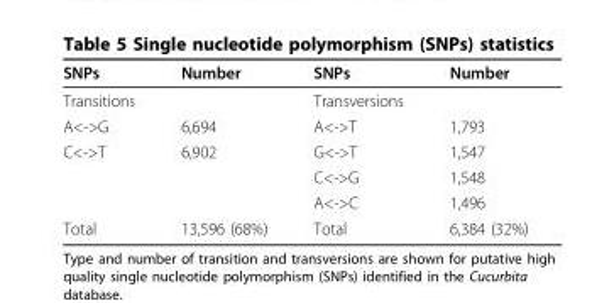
<table><thead><tr><td>SNPs</td><td>Number</td><td>SNPs</td><td>Number</td></tr></thead><tbody><tr><td>Transitions</td><td></td><td>Transversions</td><td></td></tr><tr><td>A&lt;-&gt;G</td><td>6,694</td><td>A&lt;-&gt;T</td><td>1,793</td></tr><tr><td rowspan="3">C&lt;-&gt;T</td><td>6,902</td><td>G&lt;-&gt;T</td><td>1,547</td></tr><tr><td></td><td>C&lt;-&gt;G</td><td>1,548</td></tr><tr><td></td><td>A&lt;-&gt;C</td><td>1,496</td></tr><tr><td>Total</td><td>13,596 (68%)</td><td>Total</td><td>6,384 (32%)</td></tr></tbody></table>